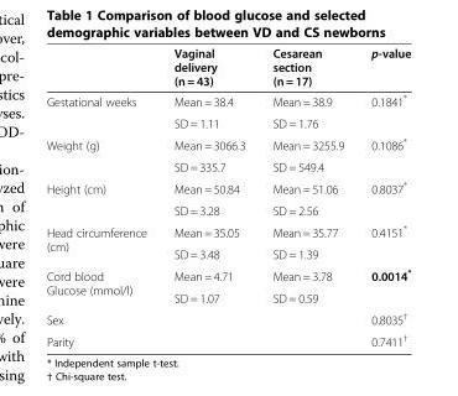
<table><thead><tr><td></td><td>Vaginal delivery (n = 43)</td><td>Cesarean section (n = 17)</td><td>p-value</td></tr></thead><tbody><tr><td rowspan="2">Gestational weeks</td><td>Mean = 38.4</td><td>Mean = 38.9</td><td rowspan="2">0.1841*</td></tr><tr><td>SD = 1.11</td><td>SD = 1.76</td></tr><tr><td rowspan="2">Weight (g)</td><td>Mean = 3066.3</td><td>Mean = 3255.9</td><td rowspan="2">0.1086*</td></tr><tr><td>SD = 335.7</td><td>SD = 549.4</td></tr><tr><td rowspan="2">Height (cm)</td><td>Mean = 50.84</td><td>Mean = 51.06</td><td rowspan="2">0.8037*</td></tr><tr><td>SD = 3.28</td><td>SD = 2.56</td></tr><tr><td rowspan="2">Head circumference (cm)</td><td>Mean = 35.05</td><td>Mean = 35.77</td><td rowspan="2">0.4151*</td></tr><tr><td>SD = 3.48</td><td>SD = 1.39</td></tr><tr><td rowspan="2">Cord blood Glucose (mmol/l)</td><td>Mean = 4.71</td><td>Mean = 3.78</td><td rowspan="2">0.0014*</td></tr><tr><td>SD = 1.07</td><td>SD = 0.59</td></tr><tr><td>Sex</td><td></td><td></td><td>0.8035<sup>†</sup></td></tr><tr><td>Parity</td><td></td><td></td><td>0.7411<sup>†</sup></td></tr></tbody></table>